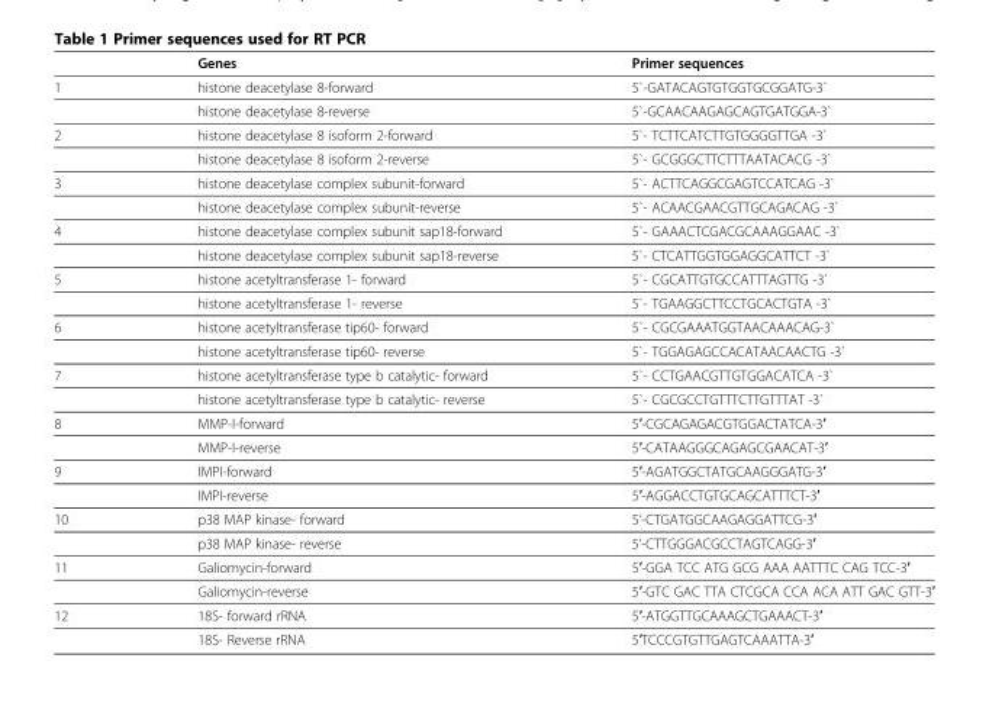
<table><thead><tr><td></td><td>Genes</td><td>Primer sequences</td></tr></thead><tbody><tr><td rowspan="2">1</td><td>histone deacetylase 8-forward</td><td>5`-GATACAGTGTGGTGCGGATG-3`</td></tr><tr><td>histone deacetylase 8-reverse</td><td>5`-GCAACAAGAGCAGTGATGGA-3`</td></tr><tr><td rowspan="2">2</td><td>histone deacetylase 8 isoform 2-forward</td><td>5`- TCTTCATCTTGTGGGGTTGA -3`</td></tr><tr><td>histone deacetylase 8 isoform 2-reverse</td><td>5`- GCGGGCTTCTTTAATACACG -3`</td></tr><tr><td rowspan="2">3</td><td>histone deacetylase complex subunit-forward</td><td>5`- ACTTCAGGCGAGTCCATCAG -3`</td></tr><tr><td>histone deacetylase complex subunit-reverse</td><td>5`- ACAACGAACGTTGCAGACAG -3`</td></tr><tr><td rowspan="2">4</td><td>histone deacetylase complex subunit sap18-forward</td><td>5`- GAAACTCGACGCAAAGGAAC -3`</td></tr><tr><td>histone deacetylase complex subunit sap18-reverse</td><td>5`- CTCATTGGTGGAGGCATTCT -3`</td></tr><tr><td rowspan="2">5</td><td>histone acetyltransferase 1- forward</td><td>5`- CGCATTGTGCCATTTAGTTG -3`</td></tr><tr><td>histone acetyltransferase 1- reverse</td><td>5`- TGAAGGCTTCCTGCACTGTA -3`</td></tr><tr><td rowspan="2">6</td><td>histone acetyltransferase tip60- forward</td><td>5`- CGCGAAATGGTAACAAACAG-3`</td></tr><tr><td>histone acetyltransferase tip60- reverse</td><td>5`- TGGAGAGCCACATAACAACTG -3`</td></tr><tr><td rowspan="2">7</td><td>histone acetyltransferase type b catalytic- forward</td><td>5`- CCTGAACGTTGTGGACATCA -3`</td></tr><tr><td>histone acetyltransferase type b catalytic- reverse</td><td>5`- CGCGCCTGTTTCTTGTTTAT -3`</td></tr><tr><td rowspan="2">8</td><td>MMP-I-forward</td><td>5′-CGCAGAGACGTGGACTATCA-3′</td></tr><tr><td>MMP-I-reverse</td><td>5′-CATAAGGGCAGAGCGAACAT-3′</td></tr><tr><td rowspan="2">9</td><td>IMPI-forward</td><td>5′-AGATGGCTATGCAAGGGATG-3′</td></tr><tr><td>IMPI-reverse</td><td>5′-AGGACCTGTGCAGCATTTCT-3′</td></tr><tr><td rowspan="2">10</td><td>p38 MAP kinase- forward</td><td>5’-CTGATGGCAAGAGGATTCG-3′</td></tr><tr><td>p38 MAP kinase- reverse</td><td>5’-CTTGGGACGCCTAGTCAGG-3′</td></tr><tr><td rowspan="2">11</td><td>Galiomycin-forward</td><td>5′-GGA TCC ATG GCG AAA AATTTC CAG TCC-3′</td></tr><tr><td>Galiomycin-reverse</td><td>5′-GTC GAC TTA CTCGCA CCA ACA ATT GAC GTT-3′</td></tr><tr><td rowspan="2">12</td><td>18S- forward rRNA</td><td>5′-ATGGTTGCAAAGCTGAAACT-3′</td></tr><tr><td>18S- Reverse rRNA</td><td>5′TCCCGTGTTGAGTCAAATTA-3′</td></tr></tbody></table>